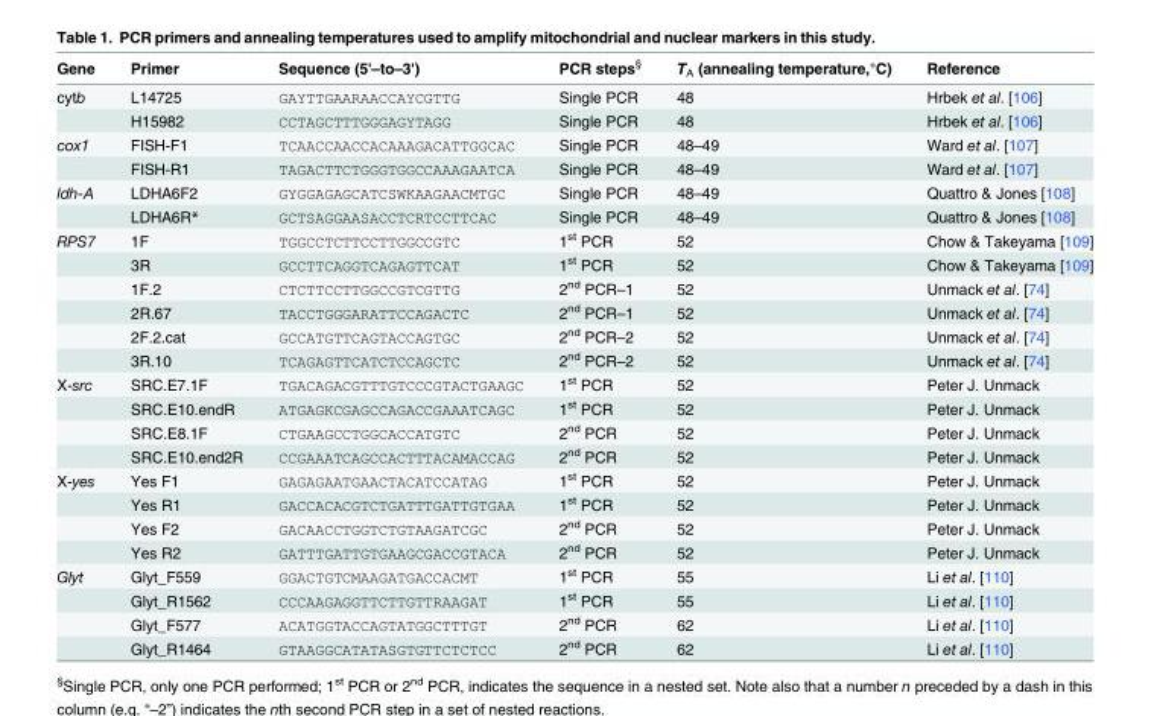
<table><thead><tr><td>Gene</td><td>Primer</td><td>Sequence (5&#x27;–to–3&#x27;)</td><td>PCR steps<sup>§</sup></td><td>T<sub>A</sub> (annealing temperature,°C)</td><td>Reference</td></tr></thead><tbody><tr><td rowspan="2">cytb</td><td>L14725</td><td>GAYTTGAARAACCAYCGTTG</td><td>Single PCR</td><td>48</td><td>Hrbek et al. [106]</td></tr><tr><td>H15982</td><td>CCTAGCTTTGGGAGYTAGG</td><td>Single PCR</td><td>48</td><td>Hrbek et al. [106]</td></tr><tr><td rowspan="2">cox1</td><td>FISH-F1</td><td>TCAACCAACCACAAAGACATTGGCAC</td><td>Single PCR</td><td>48–49</td><td>Ward et al. [107]</td></tr><tr><td>FISH-R1</td><td>TAGACTTCTGGGTGGCCAAAGAATCA</td><td>Single PCR</td><td>48–49</td><td>Ward et al. [107]</td></tr><tr><td rowspan="2">ldh-A</td><td>LDHA6F2</td><td>GYGGAGAGCATCSWKAAGAACMTGC</td><td>Single PCR</td><td>48–49</td><td>Quattro &amp; Jones [108]</td></tr><tr><td>LDHA6R*</td><td>GCTSAGGAASACCTCRTCCTTCAC</td><td>Single PCR</td><td>48–49</td><td>Quattro &amp; Jones [108]</td></tr><tr><td rowspan="6">RPS7</td><td>1F</td><td>TGGCCTCTTCCTTGGCCGTC</td><td>1<sup>st</sup> PCR</td><td>52</td><td>Chow &amp; Takeyama [109]</td></tr><tr><td>3R</td><td>GCCTTCAGGTCAGAGTTCAT</td><td>1<sup>st</sup> PCR</td><td>52</td><td>Chow &amp; Takeyama [109]</td></tr><tr><td>1F.2</td><td>CTCTTCCTTGGCCGTCGTTG</td><td>2<sup>nd</sup> PCR–1</td><td>52</td><td>Unmack et al. [74]</td></tr><tr><td>2R.67</td><td>TACCTGGGARATTCCAGACTC</td><td>2<sup>nd</sup> PCR–1</td><td>52</td><td>Unmack et al. [74]</td></tr><tr><td>2F.2.cat</td><td>GCCATGTTCAGTACCAGTGC</td><td>2<sup>nd</sup> PCR–2</td><td>52</td><td>Unmack et al. [74]</td></tr><tr><td>3R.10</td><td>TCAGAGTTCATCTCCAGCTC</td><td>2<sup>nd</sup> PCR–2</td><td>52</td><td>Unmack et al. [74]</td></tr><tr><td rowspan="4">X-src</td><td>SRC.E7.1F</td><td>TGACAGACGTTTGTCCCGTACTGAAGC</td><td>1<sup>st</sup> PCR</td><td>52</td><td>Peter J. Unmack</td></tr><tr><td>SRC.E10.endR</td><td>ATGAGKCGAGCCAGACCGAAATCAGC</td><td>1<sup>st</sup> PCR</td><td>52</td><td>Peter J. Unmack</td></tr><tr><td>SRC.E8.1F</td><td>CTGAAGCCTGGCACCATGTC</td><td>2<sup>nd</sup> PCR</td><td>52</td><td>Peter J. Unmack</td></tr><tr><td>SRC.E10.end2R</td><td>CCGAAATCAGCCACTTTACAMACCAG</td><td>2<sup>nd</sup> PCR</td><td>52</td><td>Peter J. Unmack</td></tr><tr><td rowspan="4">X-yes</td><td>Yes F1</td><td>GAGAGAATGAACTACATCCATAG</td><td>1<sup>st</sup> PCR</td><td>52</td><td>Peter J. Unmack</td></tr><tr><td>Yes R1</td><td>GACCACACGTCTGATTTGATTGTGAA</td><td>1<sup>st</sup> PCR</td><td>52</td><td>Peter J. Unmack</td></tr><tr><td>Yes F2</td><td>GACAACCTGGTCTGTAAGATCGC</td><td>2<sup>nd</sup> PCR</td><td>52</td><td>Peter J. Unmack</td></tr><tr><td>Yes R2</td><td>GATTTGATTGTGAAGCGACCGTACA</td><td>2<sup>nd</sup> PCR</td><td>52</td><td>Peter J. Unmack</td></tr><tr><td rowspan="4">Glyt</td><td>Glyt_F559</td><td>GGACTGTCMAAGATGACCACMT</td><td>1<sup>st</sup> PCR</td><td>55</td><td>Li et al. [110]</td></tr><tr><td>Glyt_R1562</td><td>CCCAAGAGGTTCTTGTTRAAGAT</td><td>1<sup>st</sup> PCR</td><td>55</td><td>Li et al. [110]</td></tr><tr><td>Glyt_F577</td><td>ACATGGTACCAGTATGGCTTTGT</td><td>2<sup>nd</sup> PCR</td><td>62</td><td>Li et al. [110]</td></tr><tr><td>Glyt_R1464</td><td>GTAAGGCATATASGTGTTCTCTCC</td><td>2<sup>nd</sup> PCR</td><td>62</td><td>Li et al. [110]</td></tr></tbody></table>